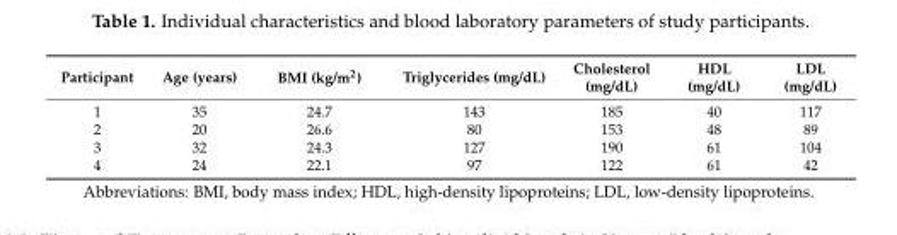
<table><thead><tr><td>Participant</td><td>Age (years)</td><td>BMI (kg/m<sup>2</sup>)</td><td>Triglycerides (mg/dL)</td><td>Cholesterol (mg/dL)</td><td>HDL (mg/dL)</td><td>LDL (mg/dL)</td></tr></thead><tbody><tr><td>1</td><td>35</td><td>24.7</td><td>143</td><td>185</td><td>40</td><td>117</td></tr><tr><td>2</td><td>20</td><td>26.6</td><td>80</td><td>153</td><td>48</td><td>89</td></tr><tr><td>3</td><td>32</td><td>24.3</td><td>127</td><td>190</td><td>61</td><td>104</td></tr><tr><td>4</td><td>24</td><td>22.1</td><td>97</td><td>122</td><td>61</td><td>42</td></tr></tbody></table>